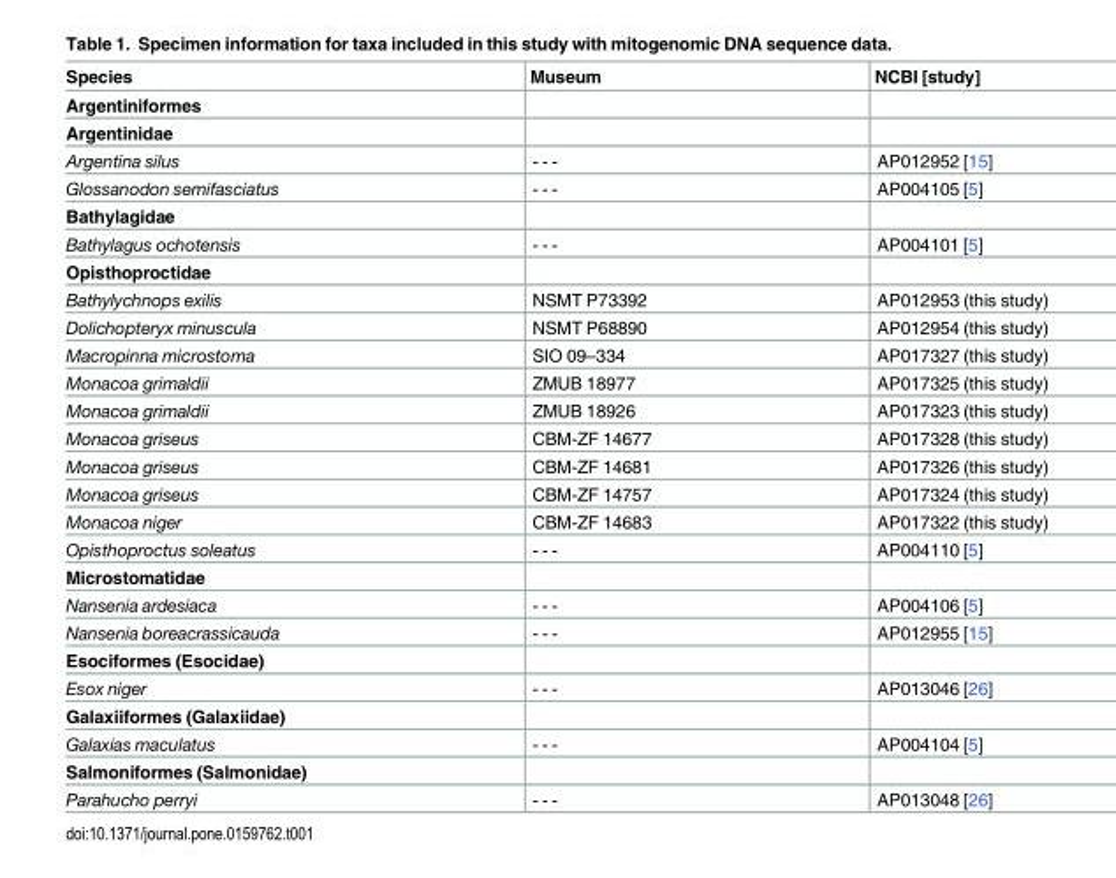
<table><thead><tr><td>Species</td><td>Museum</td><td>NCBI [study]</td></tr></thead><tbody><tr><td colspan="3">Argentiniformes</td></tr><tr><td colspan="3">Argentinidae</td></tr><tr><td>Argentina silus</td><td>- - -</td><td>AP012952 [15]</td></tr><tr><td>Glossanodon semifasciatus</td><td>- - -</td><td>AP004105 [5]</td></tr><tr><td colspan="3">Bathylagidae</td></tr><tr><td>Bathylagus ochotensis</td><td>- - -</td><td>AP004101 [5]</td></tr><tr><td colspan="3">Opisthoproctidae</td></tr><tr><td>Bathylychnops exilis</td><td>NSMT P73392</td><td>AP012953 (this study)</td></tr><tr><td>Dolichopteryx minuscula</td><td>NSMT P68890</td><td>AP012954 (this study)</td></tr><tr><td>Macropinna microstoma</td><td>SIO 09–334</td><td>AP017327 (this study)</td></tr><tr><td>Monacoa grimaldii</td><td>ZMUB 18977</td><td>AP017325 (this study)</td></tr><tr><td>Monacoa grimaldii</td><td>ZMUB 18926</td><td>AP017323 (this study)</td></tr><tr><td>Monacoa griseus</td><td>CBM-ZF 14677</td><td>AP017328 (this study)</td></tr><tr><td>Monacoa griseus</td><td>CBM-ZF 14681</td><td>AP017326 (this study)</td></tr><tr><td>Monacoa griseus</td><td>CBM-ZF 14757</td><td>AP017324 (this study)</td></tr><tr><td>Monacoa niger</td><td>CBM-ZF 14683</td><td>AP017322 (this study)</td></tr><tr><td>Opisthoproctus soleatus</td><td>- - -</td><td>AP004110 [5]</td></tr><tr><td colspan="3">Microstomatidae</td></tr><tr><td>Nansenia ardesiaca</td><td>- - -</td><td>AP004106 [5]</td></tr><tr><td>Nansenia boreacrassicauda</td><td>- - -</td><td>AP012955 [15]</td></tr><tr><td colspan="3">Esociformes (Esocidae)</td></tr><tr><td>Esox niger</td><td>- - -</td><td>AP013046 [26]</td></tr><tr><td colspan="3">Galaxiiformes (Galaxiidae)</td></tr><tr><td>Galaxias maculatus</td><td>- - -</td><td>AP004104 [5]</td></tr><tr><td colspan="3">Salmoniformes (Salmonidae)</td></tr><tr><td>Parahucho perryi</td><td>- - -</td><td>AP013048 [26]</td></tr></tbody></table>